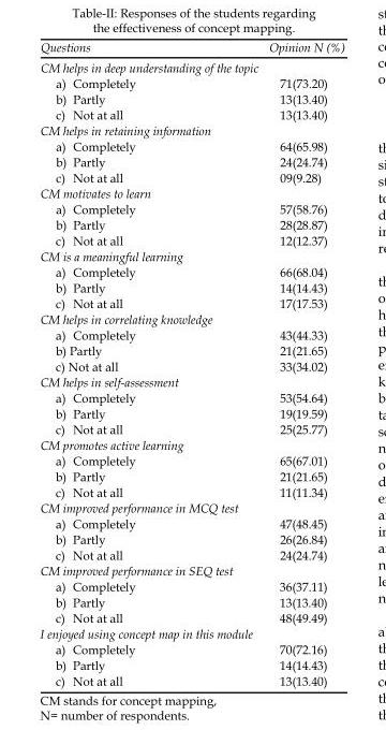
<table><thead><tr><td>Questions</td><td>Opinion N (%)</td></tr></thead><tbody><tr><td colspan="2">CM helps in deep understanding of the topic</td></tr><tr><td>a) Completely</td><td>71(73.20)</td></tr><tr><td>b) Partly</td><td>13(13.40)</td></tr><tr><td>c) Not at all</td><td>13(13.40)</td></tr><tr><td colspan="2">CM helps in retaining information</td></tr><tr><td>a) Completely</td><td>64(65.98)</td></tr><tr><td>b) Partly</td><td>24(24.74)</td></tr><tr><td>c) Not at all</td><td>09(9.28)</td></tr><tr><td colspan="2">CM motivates to learn</td></tr><tr><td>a) Completely</td><td>57(58.76)</td></tr><tr><td>b) Partly</td><td>28(28.87)</td></tr><tr><td>c) Not at all</td><td>12(12.37)</td></tr><tr><td colspan="2">CM is a meaningful learning</td></tr><tr><td>a) Completely</td><td>66(68.04)</td></tr><tr><td>b) Partly</td><td>14(14.43)</td></tr><tr><td>c) Not at all</td><td>17(17.53)</td></tr><tr><td colspan="2">CM helps in correlating knowledge</td></tr><tr><td>a) Completely</td><td>43(44.33)</td></tr><tr><td>b) Partly</td><td>21(21.65)</td></tr><tr><td>c) Not at all</td><td>33(34.02)</td></tr><tr><td colspan="2">CM helps in self-assessment</td></tr><tr><td>a) Completely</td><td>53(54.64)</td></tr><tr><td>b) Partly</td><td>19(19.59)</td></tr><tr><td>c) Not at all</td><td>25(25.77)</td></tr><tr><td colspan="2">CM promotes active learning</td></tr><tr><td>a) Completely</td><td>65(67.01)</td></tr><tr><td>b) Partly</td><td>21(21.65)</td></tr><tr><td>c) Not at all</td><td>11(11.34)</td></tr><tr><td colspan="2">CM improved performance in MCQ test</td></tr><tr><td>a) Completely</td><td>47(48.45)</td></tr><tr><td>b) Partly</td><td>26(26.84)</td></tr><tr><td>c) Not at all</td><td>24(24.74)</td></tr><tr><td colspan="2">CM improved performance in SEQ test</td></tr><tr><td>a) Completely</td><td>36(37.11)</td></tr><tr><td>b) Partly</td><td>13(13.40)</td></tr><tr><td>c) Not at all</td><td>48(49.49)</td></tr><tr><td colspan="2">I enjoyed using concept map in this module</td></tr><tr><td>a) Completely</td><td>70(72.16)</td></tr><tr><td>b) Partly</td><td>14(14.43)</td></tr><tr><td>c) Not at all</td><td>13(13.40)</td></tr></tbody></table>